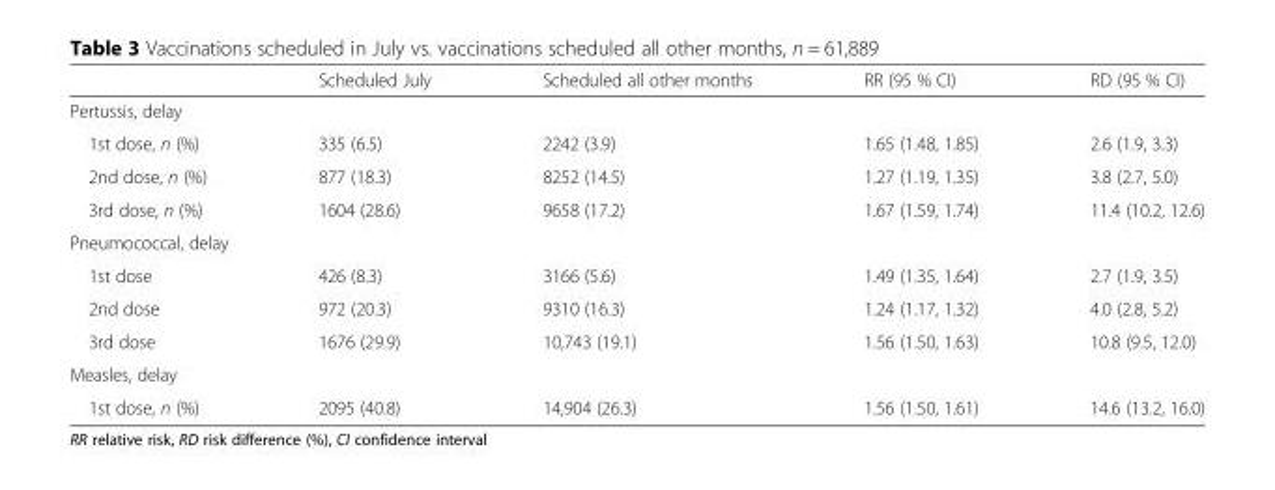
<table><thead><tr><td></td><td>Scheduled July</td><td>Scheduled all other months</td><td>RR (95 % CI)</td><td>RD (95 % CI)</td></tr></thead><tbody><tr><td colspan="5">Pertussis, delay</td></tr><tr><td>1st dose, n (%)</td><td>335 (6.5)</td><td>2242 (3.9)</td><td>1.65 (1.48, 1.85)</td><td>2.6 (1.9, 3.3)</td></tr><tr><td>2nd dose, n (%)</td><td>877 (18.3)</td><td>8252 (14.5)</td><td>1.27 (1.19, 1.35)</td><td>3.8 (2.7, 5.0)</td></tr><tr><td>3rd dose, n (%)</td><td>1604 (28.6)</td><td>9658 (17.2)</td><td>1.67 (1.59, 1.74)</td><td>11.4 (10.2, 12.6)</td></tr><tr><td colspan="5">Pneumococcal, delay</td></tr><tr><td>1st dose</td><td>426 (8.3)</td><td>3166 (5.6)</td><td>1.49 (1.35, 1.64)</td><td>2.7 (1.9, 3.5)</td></tr><tr><td>2nd dose</td><td>972 (20.3)</td><td>9310 (16.3)</td><td>1.24 (1.17, 1.32)</td><td>4.0 (2.8, 5.2)</td></tr><tr><td>3rd dose</td><td>1676 (29.9)</td><td>10,743 (19.1)</td><td>1.56 (1.50, 1.63)</td><td>10.8 (9.5, 12.0)</td></tr><tr><td colspan="5">Measles, delay</td></tr><tr><td>1st dose, n (%)</td><td>2095 (40.8)</td><td>14,904 (26.3)</td><td>1.56 (1.50, 1.61)</td><td>14.6 (13.2, 16.0)</td></tr></tbody></table>